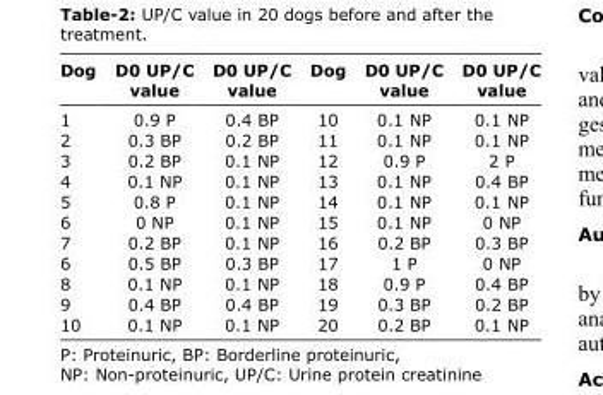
<table><thead><tr><td>Dog</td><td>D0 UP/C value</td><td>D0 UP/C value</td><td>Dog</td><td>D0 UP/C value</td><td>D0 UP/C value</td></tr></thead><tbody><tr><td>1</td><td>0.9 P</td><td>0.4 BP</td><td>10</td><td>0.1 NP</td><td>0.1 NP</td></tr><tr><td>2</td><td>0.3 BP</td><td>0.2 BP</td><td>11</td><td>0.1 NP</td><td>0.1 NP</td></tr><tr><td>3</td><td>0.2 BP</td><td>0.1 NP</td><td>12</td><td>0.9 P</td><td>2 P</td></tr><tr><td>4</td><td>0.1 NP</td><td>0.1 NP</td><td>13</td><td>0.1 NP</td><td>0.4 BP</td></tr><tr><td>5</td><td>0.8 P</td><td>0.1 NP</td><td>14</td><td>0.1 NP</td><td>0.1 NP</td></tr><tr><td>6</td><td>0 NP</td><td>0.1 NP</td><td>15</td><td>0.1 NP</td><td>0 NP</td></tr><tr><td>7</td><td>0.2 BP</td><td>0.1 NP</td><td>16</td><td>0.2 BP</td><td>0.3 BP</td></tr><tr><td>6</td><td>0.5 BP</td><td>0.3 BP</td><td>17</td><td>1 P</td><td>0 NP</td></tr><tr><td>8</td><td>0.1 NP</td><td>0.1 NP</td><td>18</td><td>0.9 P</td><td>0.4 BP</td></tr><tr><td>9</td><td>0.4 BP</td><td>0.4 BP</td><td>19</td><td>0.3 BP</td><td>0.2 BP</td></tr><tr><td>10</td><td>0.1 NP</td><td>0.1 NP</td><td>20</td><td>0.2 BP</td><td>0.1 NP</td></tr></tbody></table>